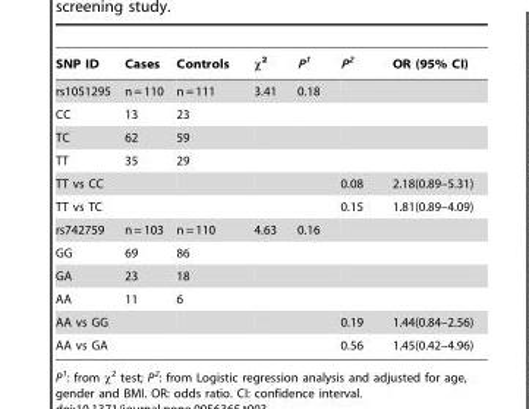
<table><thead><tr><td>SNP ID</td><td>Cases</td><td>Controls</td><td>χ<sup>2</sup></td><td>P<sup>1</sup></td><td>P<sup>2</sup></td><td>OR (95% CI)</td></tr></thead><tbody><tr><td>rs1051295</td><td>n = 110</td><td>n = 111</td><td>3.41</td><td>0.18</td><td></td><td></td></tr><tr><td>CC</td><td>13</td><td>23</td><td></td><td></td><td></td><td></td></tr><tr><td>TC</td><td>62</td><td>59</td><td></td><td></td><td></td><td></td></tr><tr><td>TT</td><td>35</td><td>29</td><td></td><td></td><td></td><td></td></tr><tr><td>TT vs CC</td><td></td><td></td><td></td><td></td><td>0.08</td><td>2.18(0.89–5.31)</td></tr><tr><td>TT vs TC</td><td></td><td></td><td></td><td></td><td>0.15</td><td>1.81(0.89–4.09)</td></tr><tr><td>rs742759</td><td>n = 103</td><td>n = 110</td><td>4.63</td><td>0.16</td><td></td><td></td></tr><tr><td>GG</td><td>69</td><td>86</td><td></td><td></td><td></td><td></td></tr><tr><td>GA</td><td>23</td><td>18</td><td></td><td></td><td></td><td></td></tr><tr><td>AA</td><td>11</td><td>6</td><td></td><td></td><td></td><td></td></tr><tr><td>AA vs GG</td><td></td><td></td><td></td><td></td><td>0.19</td><td>1.44(0.84–2.56)</td></tr><tr><td>AA vs GA</td><td></td><td></td><td></td><td></td><td>0.56</td><td>1.45(0.42–4.96)</td></tr></tbody></table>